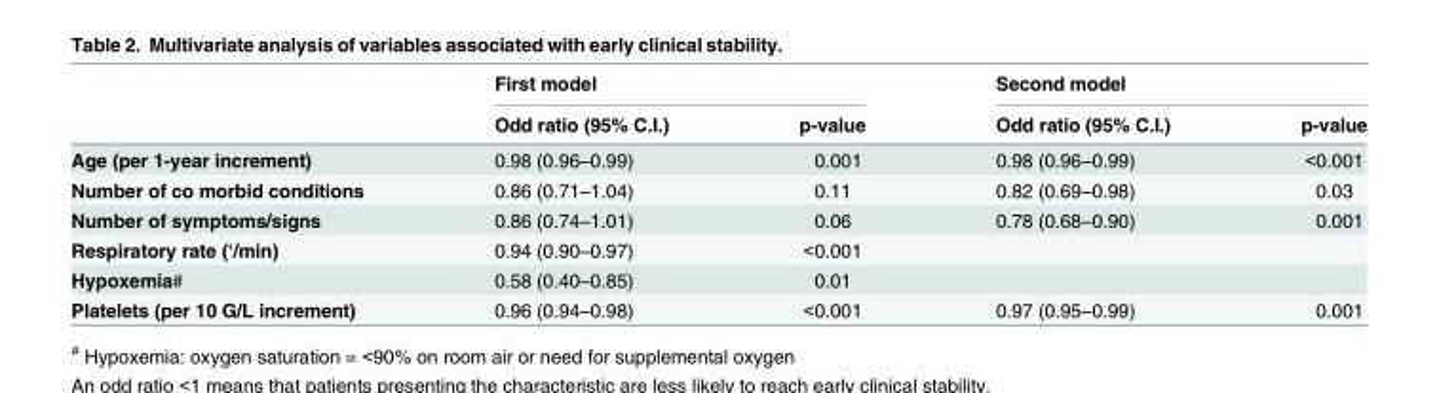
<table><thead><tr><td rowspan="2"></td><td colspan="2">First model</td><td colspan="2">Second model</td></tr><tr><td>Odd ratio (95% C.I.)</td><td>p-value</td><td>Odd ratio (95% C.I.)</td><td>p-value</td></tr></thead><tbody><tr><td>Age (per 1-year increment)</td><td>0.98 (0.96–0.99)</td><td>0.001</td><td>0.98 (0.96–0.99)</td><td>&lt;0.001</td></tr><tr><td>Number of co morbid conditions</td><td>0.86 (0.71–1.04)</td><td>0.11</td><td>0.82 (0.69–0.98)</td><td>0.03</td></tr><tr><td>Number of symptoms/signs</td><td>0.86 (0.74–1.01)</td><td>0.06</td><td>0.78 (0.68–0.90)</td><td>0.001</td></tr><tr><td>Respiratory rate (‘/min)</td><td>0.94 (0.90–0.97)</td><td>&lt;0.001</td><td></td><td></td></tr><tr><td>Hypoxemia#</td><td>0.58 (0.40–0.85)</td><td>0.01</td><td></td><td></td></tr><tr><td>Platelets (per 10 G/L increment)</td><td>0.96 (0.94–0.98)</td><td>&lt;0.001</td><td>0.97 (0.95–0.99)</td><td>0.001</td></tr></tbody></table>